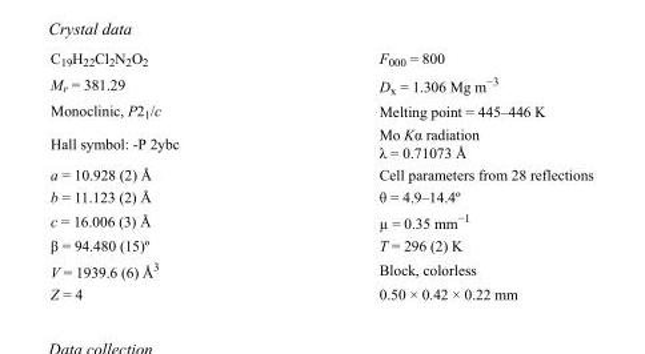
<table><tbody><tr><td>C<sub>19</sub>H<sub>22</sub>Cl<sub>2</sub>N<sub>2</sub>O<sub>2</sub></td><td>F000 = 800</td></tr><tr><td>M<sub>r</sub> = 381.29</td><td>D<sub>x</sub> = 1.306 Mg m<sup>−3</sup></td></tr><tr><td>Monoclinic, P2<sub>1</sub>/c</td><td>Melting point = 445–446 K</td></tr><tr><td>Hall symbol: -P 2ybc</td><td>Mo Kα radiation λ = 0.71073 Å</td></tr><tr><td>a = 10.928 (2) Å</td><td>Cell parameters from 28 reflections</td></tr><tr><td>b = 11.123 (2) Å</td><td>θ = 4.9–14.4º</td></tr><tr><td>c = 16.006 (3) Å</td><td>µ = 0.35 mm<sup>−1</sup></td></tr><tr><td>β = 94.480 (15)º</td><td>T = 296 (2) K</td></tr><tr><td>V = 1939.6 (6) Å<sup>3</sup></td><td>Block, colorless</td></tr><tr><td>Z = 4</td><td>0.50 × 0.42 × 0.22 mm</td></tr></tbody></table>